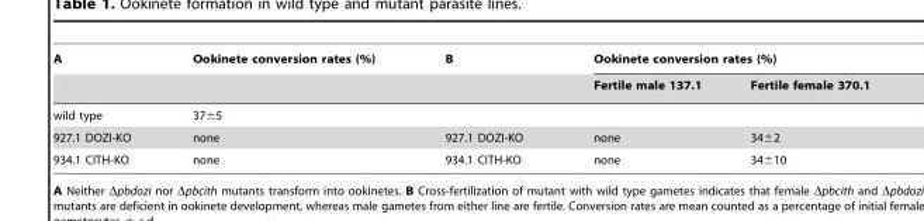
<table><thead><tr><td rowspan="2">A</td><td rowspan="2">Ookinete conversion rates (%)</td><td rowspan="2">B</td><td colspan="2">Ookinete conversion rates (%)</td></tr><tr><td>Fertile male 137.1</td><td>Fertile female 370.1</td></tr></thead><tbody><tr><td>wild type</td><td>37±5</td><td></td><td></td><td></td></tr><tr><td>927.1 DOZI-KO</td><td>none</td><td>927.1 DOZI-KO</td><td>none</td><td>34±2</td></tr><tr><td>934.1 CITH-KO</td><td>none</td><td>934.1 CITH-KO</td><td>none</td><td>34±10</td></tr></tbody></table>